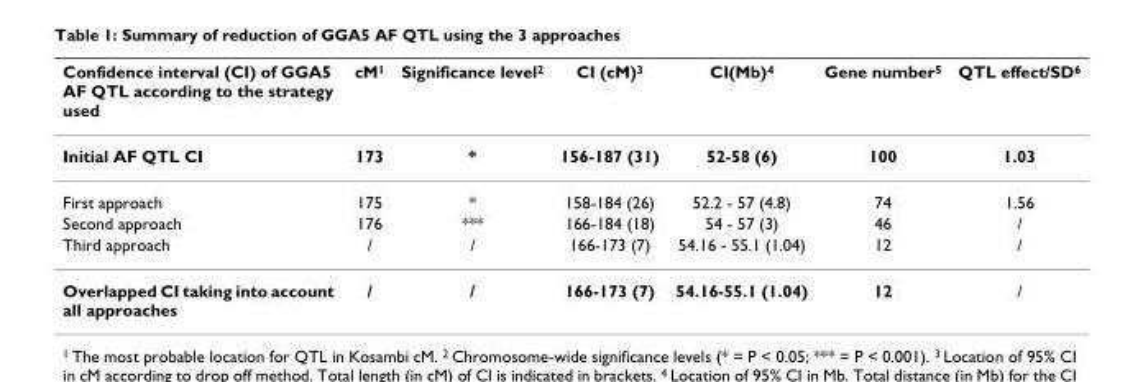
<table><thead><tr><td>Confidence interval (CI) of GGA5 AF QTL according to the strategy used</td><td>cM<sup>1</sup></td><td>Significance level<sup>2</sup></td><td>CI (cM)<sup>3</sup></td><td>CI(Mb)<sup>4</sup></td><td>Gene number<sup>5</sup></td><td>QTL effect/SD<sup>6</sup></td></tr></thead><tbody><tr><td>Initial AF QTL CI</td><td>173</td><td>*</td><td>156-187 (31)</td><td>52-58 (6)</td><td>100</td><td>1.03</td></tr><tr><td>First approach</td><td>175</td><td>*</td><td>158-184 (26)</td><td>52.2 - 57 (4.8)</td><td>74</td><td>1.56</td></tr><tr><td>Second approach</td><td>176</td><td>***</td><td>166-184 (18)</td><td>54 - 57 (3)</td><td>46</td><td>/</td></tr><tr><td>Third approach</td><td>/</td><td>/</td><td>166-173 (7)</td><td>54.16 - 55.1 (1.04)</td><td>12</td><td>/</td></tr><tr><td>Overlapped CI taking into account all approaches</td><td>/</td><td>/</td><td>166-173 (7)</td><td>54.16-55.1 (1.04)</td><td>12</td><td>/</td></tr></tbody></table>